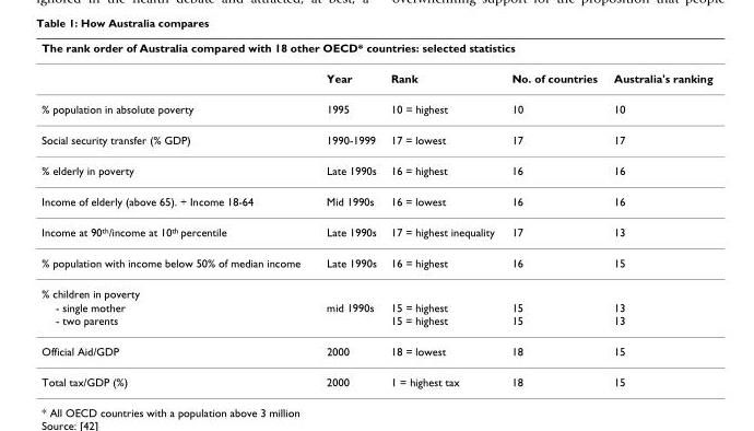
<table><thead><tr><td colspan="5">The rank order of Australia compared with 18 other OECD* countries: selected statistics</td></tr><tr><td></td><td>Year</td><td>Rank</td><td>No. of countries</td><td>Australia&#x27;s ranking</td></tr></thead><tbody><tr><td>% population in absolute poverty</td><td>1995</td><td>10 = highest</td><td>10</td><td>10</td></tr><tr><td>Social security transfer (% GDP)</td><td>1990-1999</td><td>17 = lowest</td><td>17</td><td>17</td></tr><tr><td>% elderly in poverty</td><td>Late 1990s</td><td>16 = highest</td><td>16</td><td>16</td></tr><tr><td>Income of elderly (above 65). ÷ Income 18-64</td><td>Mid 1990s</td><td>16 = lowest</td><td>16</td><td>16</td></tr><tr><td>Income at 90<sup>th</sup>/income at 10<sup>th</sup> percentile</td><td>Late 1990s</td><td>17 = highest inequality</td><td>17</td><td>13</td></tr><tr><td>% population with income below 50% of median income</td><td>Late 1990s</td><td>16 = highest</td><td>16</td><td>15</td></tr><tr><td colspan="5">% children in poverty</td></tr><tr><td>- single mother - two parents</td><td>mid 1990s</td><td>15 = highest 15 = highest</td><td>15 15</td><td>13 13</td></tr><tr><td>Official Aid/GDP</td><td>2000</td><td>18 = lowest</td><td>18</td><td>15</td></tr><tr><td>Total tax/GDP (%)</td><td>2000</td><td>1 = highest tax</td><td>18</td><td>15</td></tr></tbody></table>